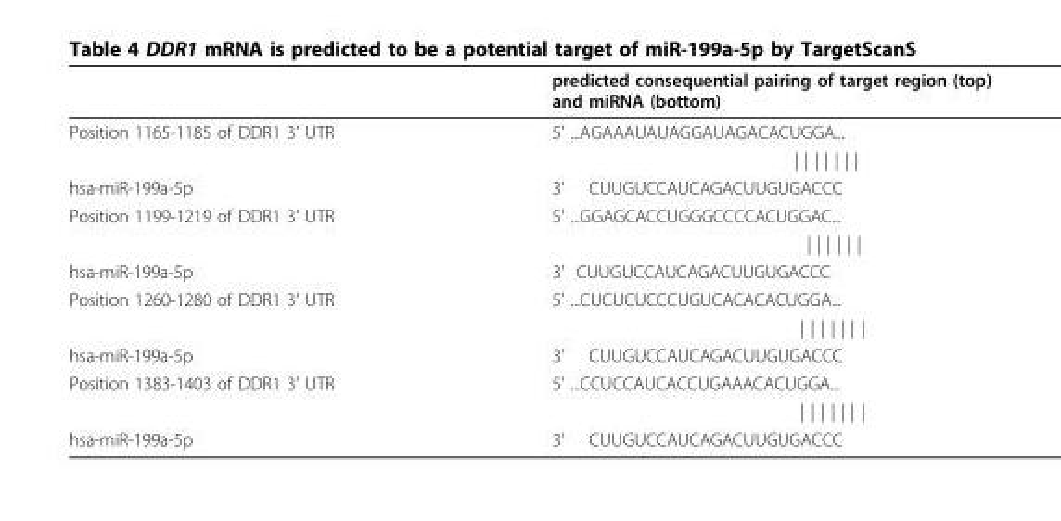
<table><thead><tr><td></td><td>predicted consequential pairing of target region (top) and miRNA (bottom)</td></tr></thead><tbody><tr><td rowspan="2">Position 1165-1185 of DDR1 3’ UTR</td><td>5’ ...AGAAAUAUAGGAUAGACACUGGA...</td></tr><tr><td>| | | | | | |</td></tr><tr><td>hsa-miR-199a-5p</td><td>3’ CUUGUCCAUCAGACUUGUGACCC</td></tr><tr><td rowspan="2">Position 1199-1219 of DDR1 3’ UTR</td><td>5’ ...GGAGCACCUGGGCCCCACUGGAC...</td></tr><tr><td>| | | | | |</td></tr><tr><td>hsa-miR-199a-5p</td><td>3’ CUUGUCCAUCAGACUUGUGACCC</td></tr><tr><td rowspan="2">Position 1260-1280 of DDR1 3’ UTR</td><td>5’ ...CUCUCUCCCUGUCACACACUGGA...</td></tr><tr><td>| | | | | | |</td></tr><tr><td>hsa-miR-199a-5p</td><td>3’ CUUGUCCAUCAGACUUGUGACCC</td></tr><tr><td rowspan="2">Position 1383-1403 of DDR1 3’ UTR</td><td>5’ ...CCUCCAUCACCUGAAACACUGGA...</td></tr><tr><td>| | | | | | |</td></tr><tr><td>hsa-miR-199a-5p</td><td>3’ CUUGUCCAUCAGACUUGUGACCC</td></tr></tbody></table>